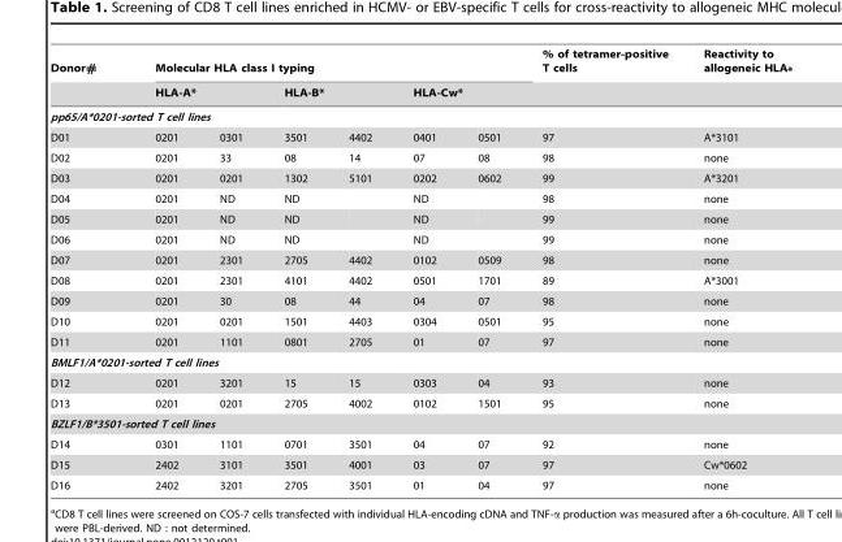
<table><thead><tr><td rowspan="2">Donor#</td><td colspan="6">Molecular HLA class I typing</td><td rowspan="2">% of tetramer-positive T cells</td><td rowspan="2">Reactivity to allogeneic HLA<sup>a</sup></td></tr><tr><td colspan="2">HLA-A*</td><td colspan="2">HLA-B*</td><td colspan="2">HLA-Cw*</td></tr><tr><td colspan="9">pp65/A*0201-sorted T cell lines</td></tr><tr><td>D01</td><td>0201</td><td>0301</td><td>3501</td><td>4402</td><td>0401</td><td>0501</td><td>97</td><td>A*3101</td></tr></thead><tbody><tr><td>D02</td><td>0201</td><td>33</td><td>08</td><td>14</td><td>07</td><td>08</td><td>98</td><td>none</td></tr><tr><td>D03</td><td>0201</td><td>0201</td><td>1302</td><td>5101</td><td>0202</td><td>0602</td><td>99</td><td>A*3201</td></tr><tr><td>D04</td><td>0201</td><td>ND</td><td>ND</td><td></td><td>ND</td><td></td><td>98</td><td>none</td></tr><tr><td>D05</td><td>0201</td><td>ND</td><td>ND</td><td></td><td>ND</td><td></td><td>99</td><td>none</td></tr><tr><td>D06</td><td>0201</td><td>ND</td><td>ND</td><td></td><td>ND</td><td></td><td>99</td><td>none</td></tr><tr><td>D07</td><td>0201</td><td>2301</td><td>2705</td><td>4402</td><td>0102</td><td>0509</td><td>98</td><td>none</td></tr><tr><td>D08</td><td>0201</td><td>2301</td><td>4101</td><td>4402</td><td>0501</td><td>1701</td><td>89</td><td>A*3001</td></tr><tr><td>D09</td><td>0201</td><td>30</td><td>08</td><td>44</td><td>04</td><td>07</td><td>98</td><td>none</td></tr><tr><td>D10</td><td>0201</td><td>0201</td><td>1501</td><td>4403</td><td>0304</td><td>0501</td><td>95</td><td>none</td></tr><tr><td>D11</td><td>0201</td><td>1101</td><td>0801</td><td>2705</td><td>01</td><td>07</td><td>97</td><td>none</td></tr><tr><td colspan="9">BMLF1/A*0201-sorted T cell lines</td></tr><tr><td>D12</td><td>0201</td><td>3201</td><td>15</td><td>15</td><td>0303</td><td>04</td><td>93</td><td>none</td></tr><tr><td>D13</td><td>0201</td><td>0201</td><td>2705</td><td>4002</td><td>0102</td><td>1501</td><td>95</td><td>none</td></tr><tr><td colspan="9">BZLF1/B*3501-sorted T cell lines</td></tr><tr><td>D14</td><td>0301</td><td>1101</td><td>0701</td><td>3501</td><td>04</td><td>07</td><td>92</td><td>none</td></tr><tr><td>D15</td><td>2402</td><td>3101</td><td>3501</td><td>4001</td><td>03</td><td>07</td><td>97</td><td>Cw*0602</td></tr><tr><td>D16</td><td>2402</td><td>3201</td><td>2705</td><td>3501</td><td>01</td><td>04</td><td>97</td><td>none</td></tr></tbody></table>